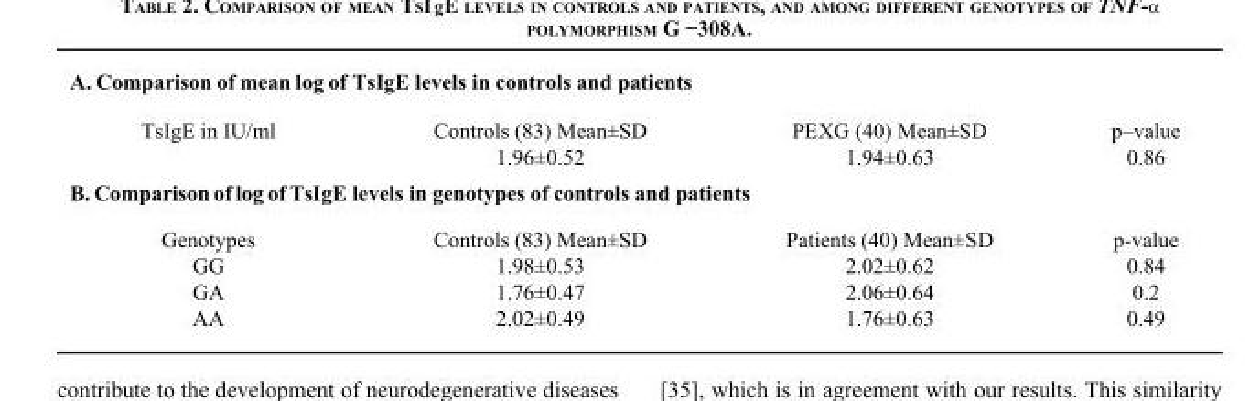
<table><thead><tr><td colspan="4">A. Comparison of mean log of TsIgE levels in controls and patients</td></tr><tr><td>TsIgE in IU/ml</td><td>Controls (83) Mean±SD</td><td>PEXG (40) Mean±SD</td><td>p–value</td></tr></thead><tbody><tr><td></td><td>1.96±0.52</td><td>1.94±0.63</td><td>0.86</td></tr><tr><td colspan="4">B. Comparison of log of TsIgE levels in genotypes of controls and patients</td></tr><tr><td>Genotypes</td><td>Controls (83) Mean±SD</td><td>Patients (40) Mean±SD</td><td>p-value</td></tr><tr><td>GG</td><td>1.98±0.53</td><td>2.02±0.62</td><td>0.84</td></tr><tr><td>GA</td><td>1.76±0.47</td><td>2.06±0.64</td><td>0.2</td></tr><tr><td>AA</td><td>2.02±0.49</td><td>1.76±0.63</td><td>0.49</td></tr></tbody></table>